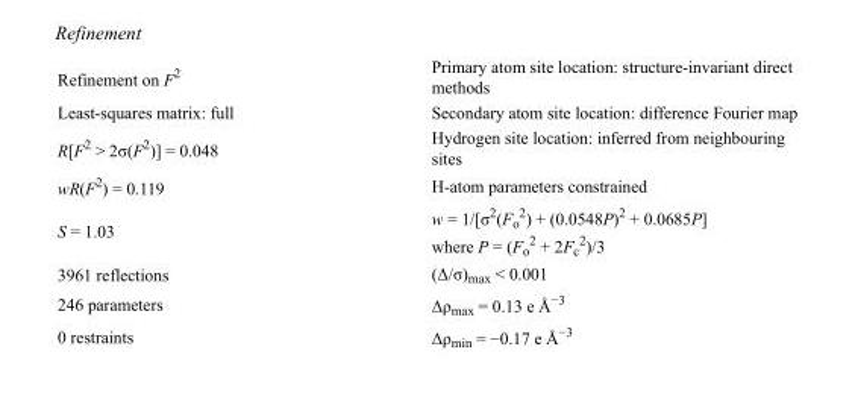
<table><tbody><tr><td>Refinement on F<sup>2</sup></td><td>Primary atom site location: structure-invariant direct methods</td></tr><tr><td>Least-squares matrix: full</td><td>Secondary atom site location: difference Fourier map</td></tr><tr><td>R[F<sup>2</sup> &gt; 2σ(F<sup>2</sup>)] = 0.048</td><td>Hydrogen site location: inferred from neighbouring sites</td></tr><tr><td>wR(F<sup>2</sup>) = 0.119</td><td>H-atom parameters constrained</td></tr><tr><td>S = 1.03</td><td>w = 1/[σ<sup>2</sup>(F<sub>o</sub> <sup>2</sup>) + (0.0548P)<sup>2</sup> + 0.0685P] where P = (F<sub>o</sub> <sup>2</sup> + 2F<sub>c</sub> <sup>2</sup>)/3</td></tr><tr><td>3961 reflections</td><td>(Δ/σ)<sub>max</sub> &lt; 0.001</td></tr><tr><td>246 parameters</td><td>Δρ<sub>max</sub> = 0.13 e Å<sup>−3</sup></td></tr><tr><td>0 restraints</td><td>Δρ<sub>min</sub> = −0.17 e Å<sup>−3</sup></td></tr></tbody></table>